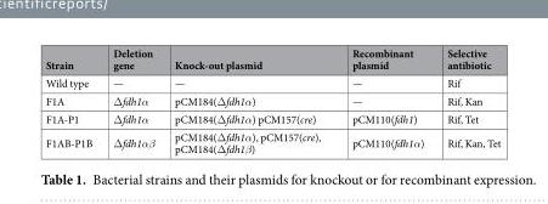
<table><thead><tr><td>Strain</td><td>Deletion gene</td><td>Knock-out plasmid</td><td>Recombinant plasmid</td><td>Selective antibiotic</td></tr></thead><tbody><tr><td>Wild type</td><td>—</td><td>—</td><td>—</td><td>Rif</td></tr><tr><td>F1A</td><td>Δfdh1α</td><td>pCM184(Δfdh1α)</td><td>—</td><td>Rif, Kan</td></tr><tr><td>F1A-P1</td><td>Δfdh1α</td><td>pCM184(Δfdh1α) pCM157(cre)</td><td>pCM110(fdh1)</td><td>Rif, Tet</td></tr><tr><td>F1AB-P1B</td><td>Δfdh1αβ</td><td>pCM184(Δfdh1α), pCM157(cre), pCM184(Δfdh1β)</td><td>pCM110(fdh1α)</td><td>Rif, Kan, Tet</td></tr></tbody></table>